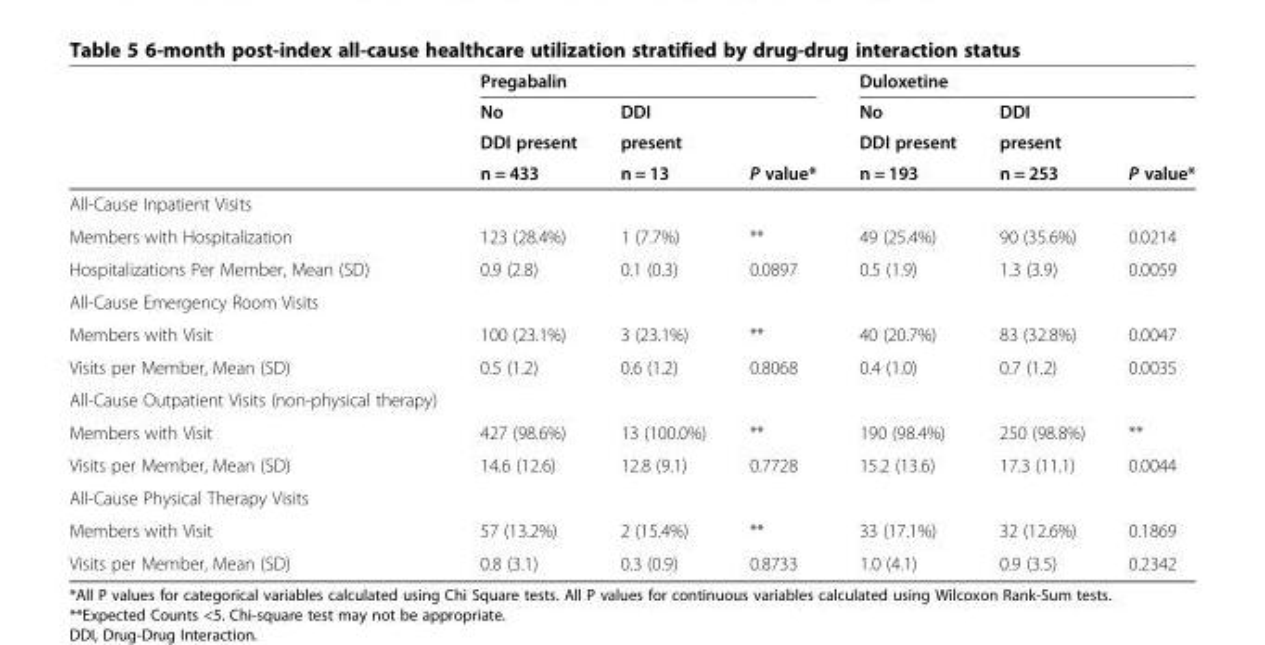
<table><thead><tr><td rowspan="4"></td><td colspan="3">Pregabalin</td><td colspan="3">Duloxetine</td></tr><tr><td rowspan="3">No DDI present n = 433</td><td rowspan="3">DDI present n = 13</td><td rowspan="3">P value*</td><td rowspan="3">No DDI present n = 193</td><td rowspan="3">DDI present n = 253</td><td rowspan="3">P value*</td></tr><tr></tr><tr></tr></thead><tbody><tr><td colspan="7">All-Cause Inpatient Visits</td></tr><tr><td>Members with Hospitalization</td><td>123 (28.4%)</td><td>1 (7.7%)</td><td>**</td><td>49 (25.4%)</td><td>90 (35.6%)</td><td>0.0214</td></tr><tr><td>Hospitalizations Per Member, Mean (SD)</td><td>0.9 (2.8)</td><td>0.1 (0.3)</td><td>0.0897</td><td>0.5 (1.9)</td><td>1.3 (3.9)</td><td>0.0059</td></tr><tr><td colspan="7">All-Cause Emergency Room Visits</td></tr><tr><td>Members with Visit</td><td>100 (23.1%)</td><td>3 (23.1%)</td><td>**</td><td>40 (20.7%)</td><td>83 (32.8%)</td><td>0.0047</td></tr><tr><td>Visits per Member, Mean (SD)</td><td>0.5 (1.2)</td><td>0.6 (1.2)</td><td>0.8068</td><td>0.4 (1.0)</td><td>0.7 (1.2)</td><td>0.0035</td></tr><tr><td colspan="7">All-Cause Outpatient Visits (non-physical therapy)</td></tr><tr><td>Members with Visit</td><td>427 (98.6%)</td><td>13 (100.0%)</td><td>**</td><td>190 (98.4%)</td><td>250 (98.8%)</td><td>**</td></tr><tr><td>Visits per Member, Mean (SD)</td><td>14.6 (12.6)</td><td>12.8 (9.1)</td><td>0.7728</td><td>15.2 (13.6)</td><td>17.3 (11.1)</td><td>0.0044</td></tr><tr><td colspan="7">All-Cause Physical Therapy Visits</td></tr><tr><td>Members with Visit</td><td>57 (13.2%)</td><td>2 (15.4%)</td><td>**</td><td>33 (17.1%)</td><td>32 (12.6%)</td><td>0.1869</td></tr><tr><td>Visits per Member, Mean (SD)</td><td>0.8 (3.1)</td><td>0.3 (0.9)</td><td>0.8733</td><td>1.0 (4.1)</td><td>0.9 (3.5)</td><td>0.2342</td></tr></tbody></table>